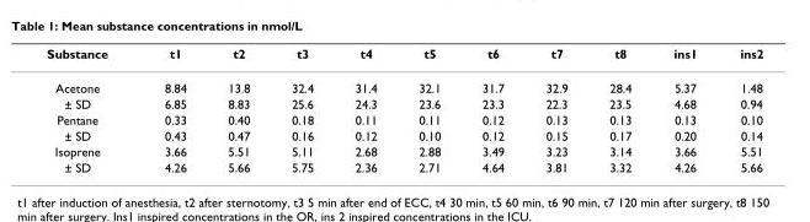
<table><thead><tr><td>Substance</td><td>t1</td><td>t2</td><td>t3</td><td>t4</td><td>t5</td><td>t6</td><td>t7</td><td>t8</td><td>ins1</td><td>ins2</td></tr></thead><tbody><tr><td>Acetone</td><td>8.84</td><td>13.8</td><td>32.4</td><td>31.4</td><td>32.1</td><td>31.7</td><td>32.9</td><td>28.4</td><td>5.37</td><td>1.48</td></tr><tr><td>± SD</td><td>6.85</td><td>8.83</td><td>25.6</td><td>24.3</td><td>23.6</td><td>23.3</td><td>22.3</td><td>23.5</td><td>4.68</td><td>0.94</td></tr><tr><td>Pentane</td><td>0.33</td><td>0.40</td><td>0.18</td><td>0.11</td><td>0.11</td><td>0.12</td><td>0.13</td><td>0.13</td><td>0.13</td><td>0.10</td></tr><tr><td>± SD</td><td>0.43</td><td>0.47</td><td>0.16</td><td>0.12</td><td>0.10</td><td>0.12</td><td>0.15</td><td>0.17</td><td>0.20</td><td>0.14</td></tr><tr><td>Isoprene</td><td>3.66</td><td>5.51</td><td>5.11</td><td>2.68</td><td>2.88</td><td>3.49</td><td>3.23</td><td>3.14</td><td>3.66</td><td>5.51</td></tr><tr><td>± SD</td><td>4.26</td><td>5.66</td><td>5.75</td><td>2.36</td><td>2.71</td><td>4.64</td><td>3.81</td><td>3.32</td><td>4.26</td><td>5.66</td></tr></tbody></table>